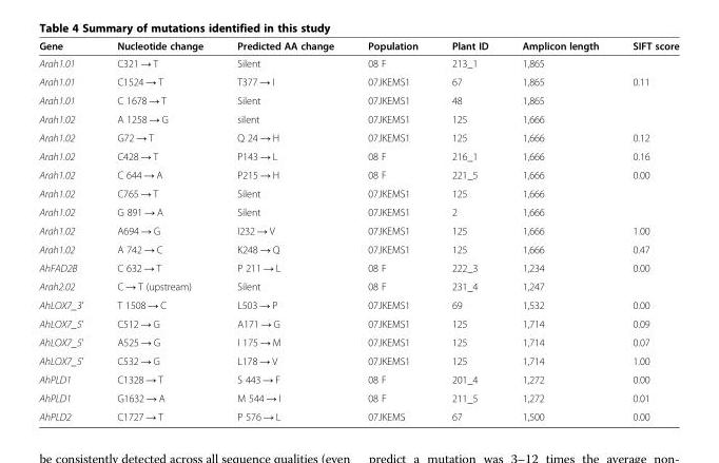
<table><thead><tr><td>Gene</td><td>Nucleotide change</td><td>Predicted AA change</td><td>Population</td><td>Plant ID</td><td>Amplicon length</td><td>SIFT score</td></tr></thead><tbody><tr><td>Arah1.01</td><td>C321 → T</td><td>Silent</td><td>08 F</td><td>213_1</td><td>1,865</td><td></td></tr><tr><td>Arah1.01</td><td>C1524 → T</td><td>T377 → I</td><td>07JKEMS1</td><td>67</td><td>1,865</td><td>0.11</td></tr><tr><td>Arah1.01</td><td>C 1678 → T</td><td>Silent</td><td>07JKEMS1</td><td>48</td><td>1,865</td><td></td></tr><tr><td>Arah1.02</td><td>A 1258 → G</td><td>silent</td><td>07JKEMS1</td><td>125</td><td>1,666</td><td></td></tr><tr><td>Arah1.02</td><td>G72 → T</td><td>Q 24 → H</td><td>07JKEMS1</td><td>125</td><td>1,666</td><td>0.12</td></tr><tr><td>Arah1.02</td><td>C428 → T</td><td>P143 → L</td><td>08 F</td><td>216_1</td><td>1,666</td><td>0.16</td></tr><tr><td>Arah1.02</td><td>C 644 → A</td><td>P215 → H</td><td>08 F</td><td>221_5</td><td>1,666</td><td>0.00</td></tr><tr><td>Arah1.02</td><td>C765 → T</td><td>Silent</td><td>07JKEMS1</td><td>125</td><td>1,666</td><td></td></tr><tr><td>Arah1.02</td><td>G 891 → A</td><td>Silent</td><td>07JKEMS1</td><td>2</td><td>1,666</td><td></td></tr><tr><td>Arah1.02</td><td>A694 → G</td><td>I232 → V</td><td>07JKEMS1</td><td>125</td><td>1,666</td><td>1.00</td></tr><tr><td>Arah1.02</td><td>A 742 → C</td><td>K248 → Q</td><td>07JKEMS1</td><td>125</td><td>1,666</td><td>0.47</td></tr><tr><td>AhFAD2B</td><td>C 632 → T</td><td>P 211 → L</td><td>08 F</td><td>222_3</td><td>1,234</td><td>0.00</td></tr><tr><td>Arah2.02</td><td>C → T (upstream)</td><td>Silent</td><td>08 F</td><td>231_4</td><td>1,247</td><td></td></tr><tr><td>AhLOX7_3&#x27;</td><td>T 1508 → C</td><td>L503 → P</td><td>07JKEMS1</td><td>69</td><td>1,532</td><td>0.00</td></tr><tr><td>AhLOX7_5&#x27;</td><td>C512 → G</td><td>A171 → G</td><td>07JKEMS1</td><td>125</td><td>1,714</td><td>0.09</td></tr><tr><td>AhLOX7_5&#x27;</td><td>A525 → G</td><td>I 175 → M</td><td>07JKEMS1</td><td>125</td><td>1,714</td><td>0.07</td></tr><tr><td>AhLOX7_5&#x27;</td><td>C532 → G</td><td>L178 → V</td><td>07JKEMS1</td><td>125</td><td>1,714</td><td>1.00</td></tr><tr><td>AhPLD1</td><td>C1328 → T</td><td>S 443 → F</td><td>08 F</td><td>201_4</td><td>1,272</td><td>0.00</td></tr><tr><td>AhPLD1</td><td>G1632 → A</td><td>M 544 → I</td><td>08 F</td><td>211_5</td><td>1,272</td><td>0.01</td></tr><tr><td>AhPLD2</td><td>C1727 → T</td><td>P 576 → L</td><td>07JKEMS</td><td>67</td><td>1,500</td><td>0.00</td></tr></tbody></table>